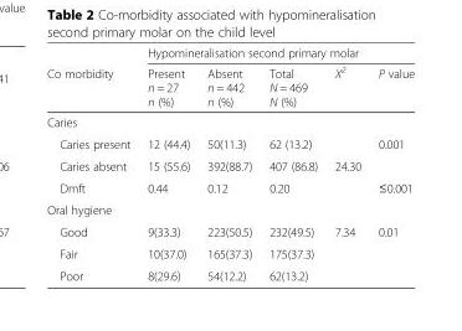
<table><thead><tr><td rowspan="2">Co morbidity</td><td colspan="5">Hypomineralisation second primary molar</td></tr><tr><td>Present n = 27 n (%)</td><td>Absent n = 442 n (%)</td><td>Total N = 469 N (%)</td><td>X<sup>2</sup></td><td>P value</td></tr></thead><tbody><tr><td colspan="6">Caries</td></tr><tr><td>Caries present</td><td>12 (44.4)</td><td>50(11.3)</td><td>62 (13.2)</td><td></td><td rowspan="2">0.001</td></tr><tr><td>Caries absent</td><td>15 (55.6)</td><td>392(88.7)</td><td>407 (86.8)</td><td>24.30</td></tr><tr><td>Dmft</td><td>0.44</td><td>0.12</td><td>0.20</td><td></td><td>≤0.001</td></tr><tr><td colspan="6">Oral hygiene</td></tr><tr><td>Good</td><td>9(33.3)</td><td>223(50.5)</td><td>232(49.5)</td><td>7.34</td><td rowspan="3">0.01</td></tr><tr><td>Fair</td><td>10(37.0)</td><td>165(37.3)</td><td>175(37.3)</td><td></td></tr><tr><td>Poor</td><td>8(29.6)</td><td>54(12.2)</td><td>62(13.2)</td><td></td></tr></tbody></table>